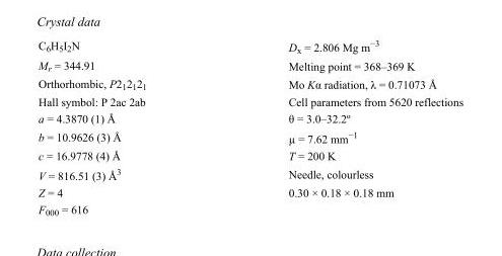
<table><tbody><tr><td>C<sub>6</sub>H<sub>5</sub>I<sub>2</sub>N</td><td>D<sub>x</sub> = 2.806 Mg m<sup>−3</sup></td></tr><tr><td>M<sub>r</sub> = 344.91</td><td>Melting point = 368–369 K</td></tr><tr><td>Orthorhombic, P2<sub>1</sub>2<sub>1</sub>2<sub>1</sub></td><td>Mo Kα radiation, λ = 0.71073 Å</td></tr><tr><td>Hall symbol: P 2ac 2ab</td><td>Cell parameters from 5620 reflections</td></tr><tr><td>a = 4.3870 (1) Å</td><td>θ = 3.0–32.2º</td></tr><tr><td>b = 10.9626 (3) Å</td><td>µ = 7.62 mm<sup>−1</sup></td></tr><tr><td>c = 16.9778 (4) Å</td><td>T = 200 K</td></tr><tr><td>V = 816.51 (3) Å<sup>3</sup></td><td>Needle, colourless</td></tr><tr><td>Z = 4</td><td>0.30 × 0.18 × 0.18 mm</td></tr><tr><td>F000 = 616</td><td></td></tr></tbody></table>